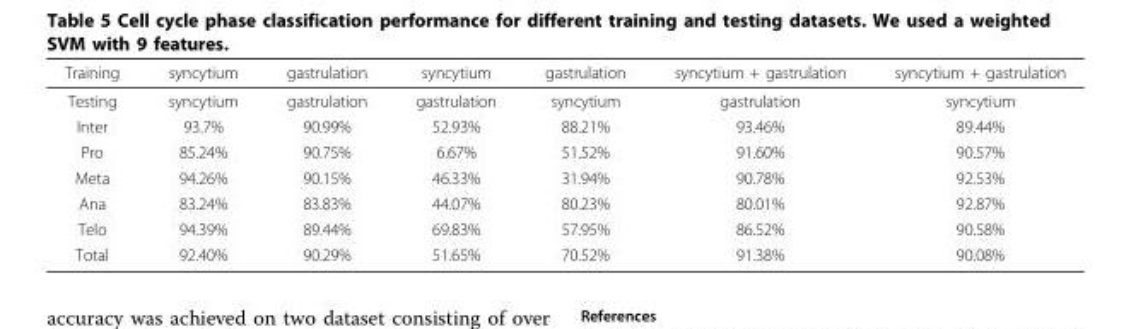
<table><thead><tr><td>Training</td><td>syncytium</td><td>gastrulation</td><td>syncytium</td><td>gastrulation</td><td>syncytium + gastrulation</td><td>syncytium + gastrulation</td></tr></thead><tbody><tr><td>Testing</td><td>syncytium</td><td>gastrulation</td><td>gastrulation</td><td>syncytium</td><td>gastrulation</td><td>syncytium</td></tr><tr><td>Inter</td><td>93.7%</td><td>90.99%</td><td>52.93%</td><td>88.21%</td><td>93.46%</td><td>89.44%</td></tr><tr><td>Pro</td><td>85.24%</td><td>90.75%</td><td>6.67%</td><td>51.52%</td><td>91.60%</td><td>90.57%</td></tr><tr><td>Meta</td><td>94.26%</td><td>90.15%</td><td>46.33%</td><td>31.94%</td><td>90.78%</td><td>92.53%</td></tr><tr><td>Ana</td><td>83.24%</td><td>83.83%</td><td>44.07%</td><td>80.23%</td><td>80.01%</td><td>92.87%</td></tr><tr><td>Telo</td><td>94.39%</td><td>89.44%</td><td>69.83%</td><td>57.95%</td><td>86.52%</td><td>90.58%</td></tr><tr><td>Total</td><td>92.40%</td><td>90.29%</td><td>51.65%</td><td>70.52%</td><td>91.38%</td><td>90.08%</td></tr></tbody></table>